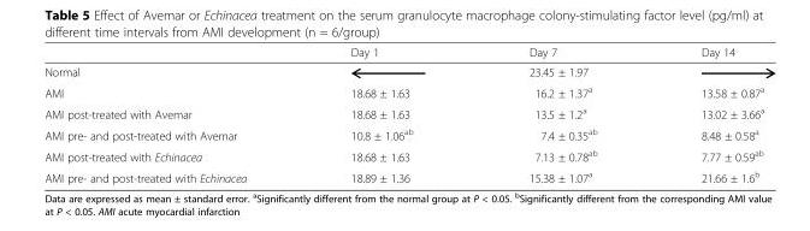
<table><thead><tr><td></td><td>Day 1</td><td>Day 7</td><td>Day 14</td></tr></thead><tbody><tr><td>Normal</td><td></td><td>23.45 ± 1.97</td><td></td></tr><tr><td>AMI</td><td>18.68 ± 1.63</td><td>16.2 ± 1.37<sup>a</sup></td><td>13.58 ± 0.87<sup>a</sup></td></tr><tr><td>AMI post-treated with Avemar</td><td>18.68 ± 1.63</td><td>13.5 ± 1.2<sup>a</sup></td><td>13.02 ± 3.66<sup>a</sup></td></tr><tr><td>AMI pre- and post-treated with Avemar</td><td>10.8 ± 1.06<sup>ab</sup></td><td>7.4 ± 0.35<sup>ab</sup></td><td>8.48 ± 0.58<sup>a</sup></td></tr><tr><td>AMI post-treated with Echinacea</td><td>18.68 ± 1.63</td><td>7.13 ± 0.78<sup>ab</sup></td><td>7.77 ± 0.59<sup>ab</sup></td></tr><tr><td>AMI pre- and post-treated with Echinacea</td><td>18.89 ± 1.36</td><td>15.38 ± 1.07<sup>a</sup></td><td>21.66 ± 1.6<sup>b</sup></td></tr></tbody></table>